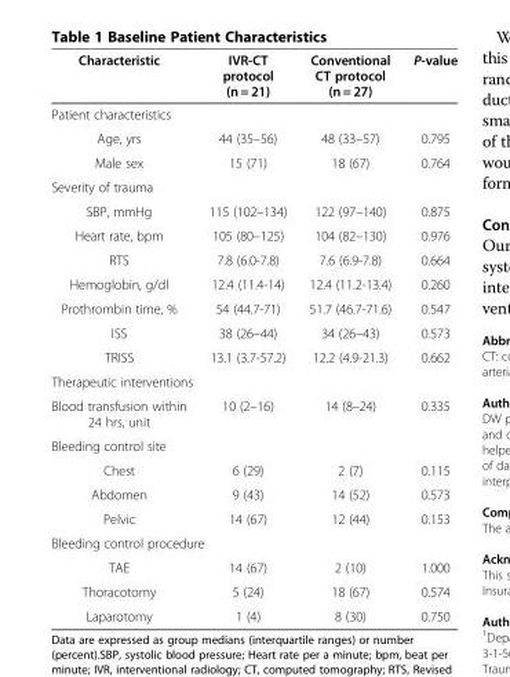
<table><thead><tr><td>Characteristic</td><td>IVR-CT protocol (n = 21)</td><td>Conventional CT protocol (n = 27)</td><td>P-value</td></tr></thead><tbody><tr><td colspan="4">Patient characteristics</td></tr><tr><td>Age, yrs</td><td>44 (35–56)</td><td>48 (33–57)</td><td>0.795</td></tr><tr><td>Male sex</td><td>15 (71)</td><td>18 (67)</td><td>0.764</td></tr><tr><td colspan="4">Severity of trauma</td></tr><tr><td>SBP, mmHg</td><td>115 (102–134)</td><td>122 (97–140)</td><td>0.875</td></tr><tr><td>Heart rate, bpm</td><td>105 (80–125)</td><td>104 (82–130)</td><td>0.976</td></tr><tr><td>RTS</td><td>7.8 (6.0-7.8)</td><td>7.6 (6.9-7.8)</td><td>0.664</td></tr><tr><td>Hemoglobin, g/dl</td><td>12.4 (11.4-14)</td><td>12.4 (11.2-13.4)</td><td>0.260</td></tr><tr><td>Prothrombin time, %</td><td>54 (44.7-71)</td><td>51.7 (46.7-71.6)</td><td>0.547</td></tr><tr><td>ISS</td><td>38 (26–44)</td><td>34 (26–43)</td><td>0.573</td></tr><tr><td>TRISS</td><td>13.1 (3.7-57.2)</td><td>12.2 (4.9-21.3)</td><td>0.662</td></tr><tr><td colspan="4">Therapeutic interventions</td></tr><tr><td>Blood transfusion within 24 hrs, unit</td><td>10 (2–16)</td><td>14 (8–24)</td><td>0.335</td></tr><tr><td colspan="4">Bleeding control site</td></tr><tr><td>Chest</td><td>6 (29)</td><td>2 (7)</td><td>0.115</td></tr><tr><td>Abdomen</td><td>9 (43)</td><td>14 (52)</td><td>0.573</td></tr><tr><td>Pelvic</td><td>14 (67)</td><td>12 (44)</td><td>0.153</td></tr><tr><td colspan="4">Bleeding control procedure</td></tr><tr><td>TAE</td><td>14 (67)</td><td>2 (10)</td><td>1.000</td></tr><tr><td>Thoracotomy</td><td>5 (24)</td><td>18 (67)</td><td>0.574</td></tr><tr><td>Laparotomy</td><td>1 (4)</td><td>8 (30)</td><td>0.750</td></tr></tbody></table>